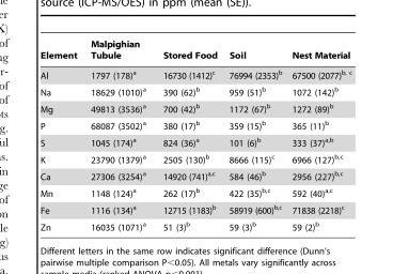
<table><thead><tr><td>Element</td><td>Malpighian Tubule</td><td>Stored Food</td><td>Soil</td><td>Nest Material</td></tr></thead><tbody><tr><td>Al</td><td>1797 (178)<sup>a</sup></td><td>16730 (1412)<sup>c</sup></td><td>76994 (2353)<sup>b</sup></td><td>67500 (2077)<sup>b, c</sup></td></tr><tr><td>Na</td><td>18629 (1010)<sup>a</sup></td><td>390 (62)<sup>b</sup></td><td>959 (51)<sup>b</sup></td><td>1072 (142)<sup>b</sup></td></tr><tr><td>Mg</td><td>49813 (3536)<sup>a</sup></td><td>700 (42)<sup>b</sup></td><td>1172 (67)<sup>b</sup></td><td>1272 (89)<sup>b</sup></td></tr><tr><td>P</td><td>68087 (3502)<sup>a</sup></td><td>380 (17)<sup>b</sup></td><td>359 (15)<sup>b</sup></td><td>365 (11)<sup>b</sup></td></tr><tr><td>S</td><td>1045 (174)<sup>a</sup></td><td>824 (36)<sup>a</sup></td><td>101 (6)<sup>b</sup></td><td>333 (37)<sup>a,b</sup></td></tr><tr><td>K</td><td>23790 (1379)<sup>a</sup></td><td>2505 (130)<sup>b</sup></td><td>8666 (115)<sup>c</sup></td><td>6966 (127)<sup>b,c</sup></td></tr><tr><td>Ca</td><td>27306 (3254)<sup>a</sup></td><td>14920 (741)<sup>a,c</sup></td><td>584 (46)<sup>b</sup></td><td>2956 (227)<sup>b,c</sup></td></tr><tr><td>Mn</td><td>1148 (124)<sup>a</sup></td><td>262 (17)<sup>b</sup></td><td>422 (35)<sup>b,c</sup></td><td>592 (40)<sup>a,c</sup></td></tr><tr><td>Fe</td><td>1116 (134)<sup>a</sup></td><td>12715 (1183)<sup>b</sup></td><td>58919 (600)<sup>b,c</sup></td><td>71838 (2218)<sup>c</sup></td></tr><tr><td>Zn</td><td>16035 (1071)<sup>a</sup></td><td>51 (3)<sup>b</sup></td><td>59 (3)<sup>b</sup></td><td>59 (2)<sup>b</sup></td></tr></tbody></table>